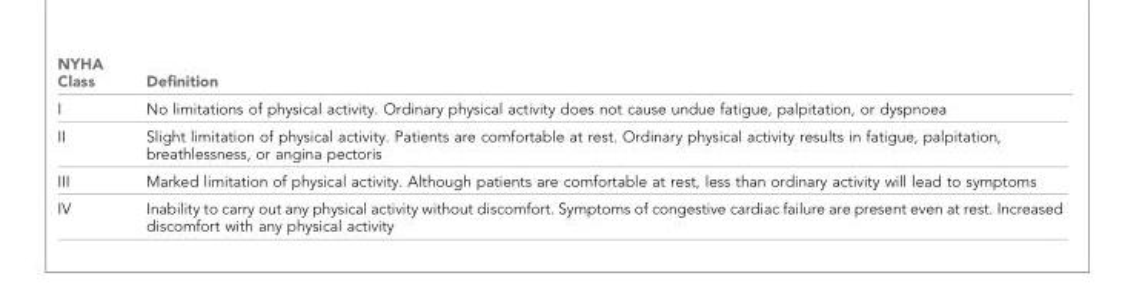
<table><thead><tr><td>NYHA Class</td><td>Definition</td></tr></thead><tbody><tr><td>I</td><td>No limitations of physical activity. Ordinary physical activity does not cause undue fatigue, palpitation, or dyspnoea</td></tr><tr><td>II</td><td>Slight limitation of physical activity. Patients are comfortable at rest. Ordinary physical activity results in fatigue, palpitation, breathlessness, or angina pectoris</td></tr><tr><td>III</td><td>Marked limitation of physical activity. Although patients are comfortable at rest, less than ordinary activity will lead to symptoms</td></tr><tr><td>IV</td><td>Inability to carry out any physical activity without discomfort. Symptoms of congestive cardiac failure are present even at rest. Increased discomfort with any physical activity</td></tr></tbody></table>